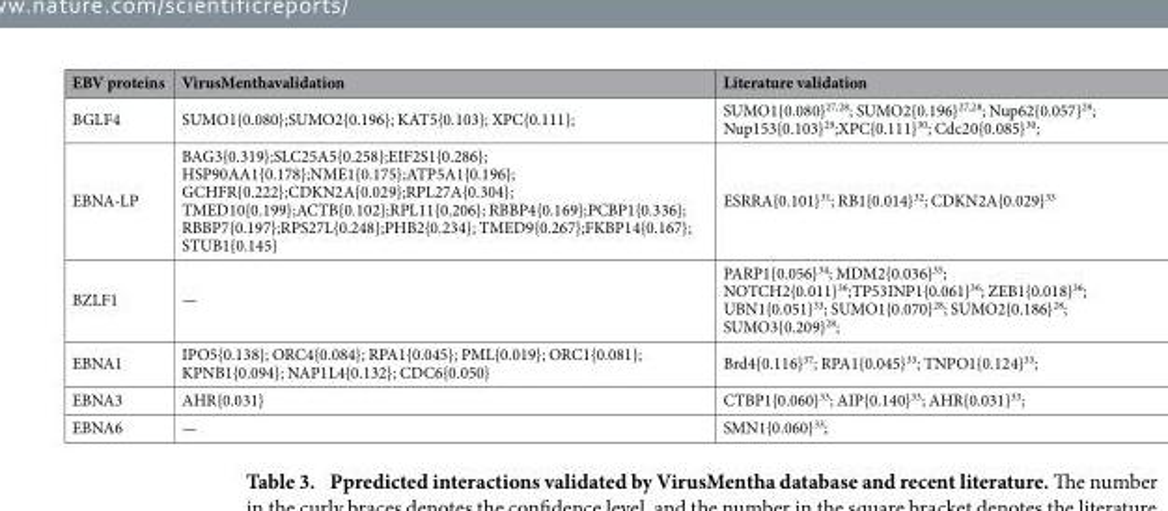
<table><thead><tr><td>EBV proteins</td><td>VirusMenthavalidation</td><td>Literature validation</td></tr></thead><tbody><tr><td>BGLF4</td><td>SUMO1{0.080};SUMO2{0.196}; KAT5{0.103}; XPC{0.111};</td><td>SUMO1{0.080}<sup>27</sup>,<sup>28</sup>; SUMO2{0.196}<sup>27</sup>,<sup>28</sup>; Nup62{0.057}<sup>29</sup>; Nup153{0.103}<sup>29</sup>;XPC{0.111}<sup>30</sup>; Cdc20{0.085}<sup>30</sup>;</td></tr><tr><td>EBNA-LP</td><td>BAG3{0.319};SLC25A5{0.258};EIF2S1{0.286}; HSP90AA1{0.178};NME1{0.175};ATP5A1{0.196}; GCHFR{0.222};CDKN2A{0.029};RPL27A{0.304}; TMED10{0.199};ACTB{0.102};RPL11{0.206}; RBBP4{0.169};PCBP1{0.336}; RBBP7{0.197};RPS27L{0.248};PHB2{0.234}; TMED9{0.267};FKBP14{0.167}; STUB1{0.145}</td><td>ESRRA{0.101}<sup>31</sup>; RB1{0.014}<sup>32</sup>; CDKN2A{0.029}<sup>33</sup></td></tr><tr><td>BZLF1</td><td>—</td><td>PARP1{0.056}<sup>34</sup>; MDM2{0.036}<sup>35</sup>; NOTCH2{0.011}<sup>36</sup>;TP53INP1{0.061}<sup>36</sup>; ZEB1{0.018}<sup>36</sup>; UBN1{0.051}<sup>33</sup>; SUMO1{0.070}<sup>28</sup>; SUMO2{0.186}<sup>28</sup>; SUMO3{0.209}<sup>28</sup>;</td></tr><tr><td>EBNA1</td><td>IPO5{0.138}; ORC4{0.084}; RPA1{0.045}; PML{0.019}; ORC1{0.081}; KPNB1{0.094}; NAP1L4{0.132}; CDC6{0.050}</td><td>Brd4{0.116}<sup>37</sup>; RPA1{0.045}<sup>33</sup>; TNPO1{0.124}<sup>33</sup>;</td></tr><tr><td>EBNA3</td><td>AHR{0.031}</td><td>CTBP1{0.060}<sup>33</sup>; AIP{0.140}<sup>33</sup>; AHR{0.031}<sup>33</sup>;</td></tr><tr><td>EBNA6</td><td>—</td><td>SMN1{0.060}<sup>33</sup>;</td></tr></tbody></table>